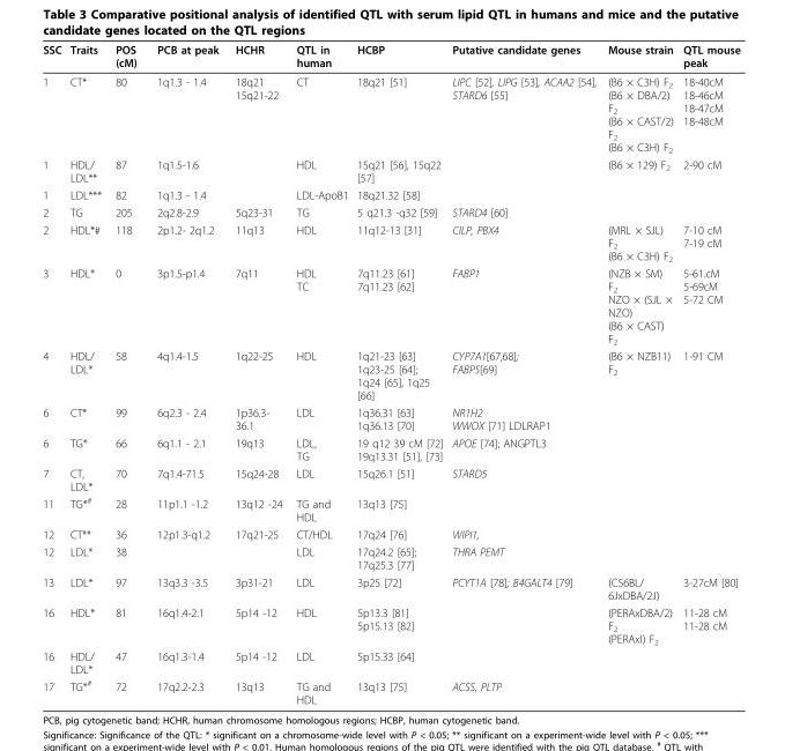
<table><thead><tr><td>SSC</td><td>Traits</td><td>POS (cM)</td><td>PCB at peak</td><td>HCHR</td><td>QTL in human</td><td>HCBP</td><td>Putative candidate genes</td><td>Mouse strain</td><td>QTL mouse peak</td></tr></thead><tbody><tr><td>1</td><td>CT*</td><td>80</td><td>1q1.3 - 1.4</td><td>18q21 15q21-22</td><td>CT</td><td>18q21 [51]</td><td>LIPC [52], LIPG [53], ACAA2 [54], STARD6 [55]</td><td>(B6 × C3H) F<sub>2</sub> (B6 × DBA/2) F<sub>2</sub> (B6 × CAST/2) F<sub>2</sub> (B6 × C3H) F<sub>2</sub></td><td>18-40cM 18-46cM 18-47cM 18-48cM</td></tr><tr><td>1</td><td>HDL/ LDL**</td><td>87</td><td>1q1.5-1.6</td><td></td><td>HDL</td><td>15q21 [56], 15q22 [57]</td><td></td><td>(B6 × 129) F<sub>2</sub></td><td>2-90 cM</td></tr><tr><td>1</td><td>LDL***</td><td>82</td><td>1q1.3 - 1.4</td><td></td><td>LDL-ApoB1</td><td>18q21.32 [58]</td><td></td><td></td><td></td></tr><tr><td>2</td><td>TG</td><td>205</td><td>2q2.8-2.9</td><td>5q23-31</td><td>TG</td><td>5 q21.3 -q32 [59]</td><td>STARD4 [60]</td><td></td><td></td></tr><tr><td>2</td><td>HDL*#</td><td>118</td><td>2p1.2- 2q1.2</td><td>11q13</td><td>HDL</td><td>11q12-13 [31]</td><td>CILP, PBX4</td><td>(MRL × SJL) F<sub>2</sub> (B6 × C3H) F<sub>2</sub></td><td>7-10 cM 7-19 cM</td></tr><tr><td>3</td><td>HDL*</td><td>0</td><td>3p1.5-p1.4</td><td>7q11</td><td>HDL TC</td><td>7q11.23 [61] 7q11.23 [62]</td><td>FABP1</td><td>(NZB × SM) F<sub>2</sub> NZO × (SJL × NZO) (B6 × CAST) F<sub>2</sub></td><td>5-61.cM 5-69cM 5-72 CM</td></tr><tr><td>4</td><td>HDL/ LDL*</td><td>58</td><td>4q1.4-1.5</td><td>1q22-25</td><td>HDL</td><td>1q21-23 [63] 1q23-25 [64]; 1q24 [65], 1q25 [66]</td><td>CYP7A1[67,68]; FABP5[69]</td><td>(B6 × NZB11) F<sub>2</sub></td><td>1-91 CM</td></tr><tr><td>6</td><td>CT*</td><td>99</td><td>6q2.3 - 2.4</td><td>1p36.3- 36.1</td><td>LDL</td><td>1q36.31 [63] 1q36.13 [70]</td><td>NR1H2 WWOX [71] LDLRAP1</td><td></td><td></td></tr><tr><td>6</td><td>TG*</td><td>66</td><td>6q1.1 - 2.1</td><td>19q13</td><td>LDL, TG</td><td>19 q12 39 cM [72] 19q13.31 [51], [73]</td><td>APOE [74]; ANGPTL3</td><td></td><td></td></tr><tr><td>7</td><td>CT, LDL*</td><td>70</td><td>7q1.4-71.5</td><td>15q24-28</td><td>LDL</td><td>15q26.1 [51]</td><td>STARD5</td><td></td><td></td></tr><tr><td>11</td><td>TG*<sup>#</sup></td><td>28</td><td>11p1.1 -1.2</td><td>13q12 -24</td><td>TG and HDL</td><td>13q13 [75]</td><td></td><td></td><td></td></tr><tr><td>12</td><td>CT**</td><td>36</td><td>12p1.3-q1.2</td><td>17q21-25</td><td>CT/HDL</td><td>17q24 [76]</td><td>WIPI1,</td><td></td><td></td></tr><tr><td>12</td><td>LDL*</td><td>38</td><td></td><td></td><td>LDL</td><td>17q24.2 [65]; 17q25.3 [77]</td><td>THRA PEMT</td><td></td><td></td></tr><tr><td>13</td><td>LDL*</td><td>97</td><td>13q3.3 -3.5</td><td>3p31-21</td><td>LDL</td><td>3p25 [72]</td><td>PCYT1A [78]; B4GALT4 [79]</td><td>(C56BL/ 6JxDBA/2J)</td><td>3-27cM [80]</td></tr><tr><td>16</td><td>HDL*</td><td>81</td><td>16q1.4-2.1</td><td>5p14 -12</td><td>HDL</td><td>5p13.3 [81] 5p15.13 [82]</td><td></td><td>(PERAxDBA/2) F<sub>2</sub> (PERAxI) F<sub>2</sub></td><td>11-28 cM 11-28 cM</td></tr><tr><td>16</td><td>HDL/ LDL*</td><td>47</td><td>16q1.3-1.4</td><td>5p14 -12</td><td>LDL</td><td>5p15.33 [64]</td><td></td><td></td><td></td></tr><tr><td>17</td><td>TG*<sup>#</sup></td><td>72</td><td>17q2.2-2.3</td><td>13q13</td><td>TG and HDL</td><td>13q13 [75]</td><td>ACSS, PLTP</td><td></td><td></td></tr></tbody></table>